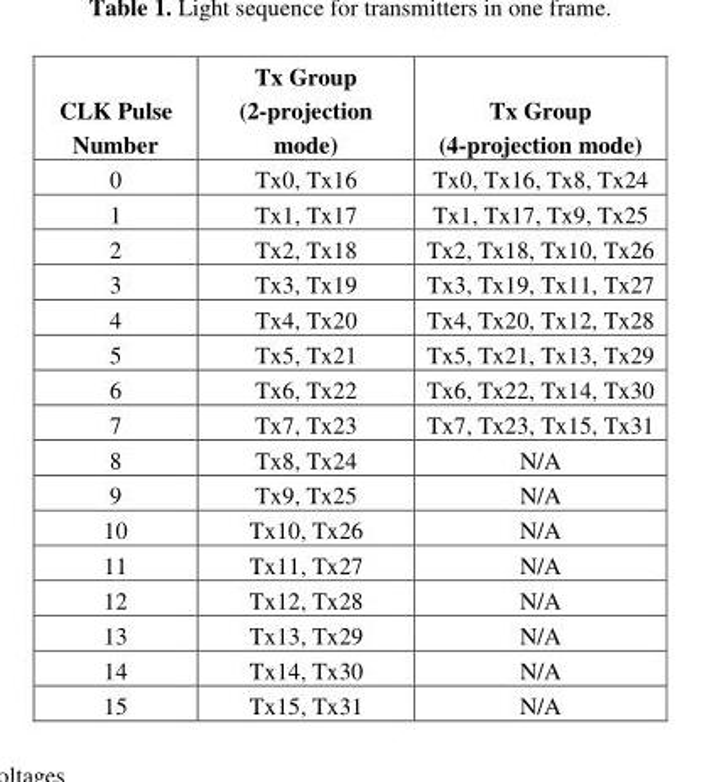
<table><thead><tr><td>CLK Pulse Number</td><td>Tx Group (2-projection mode)</td><td>Tx Group (4-projection mode)</td></tr></thead><tbody><tr><td>0</td><td>Tx0, Tx16</td><td>Tx0, Tx16, Tx8, Tx24</td></tr><tr><td>1</td><td>Tx1, Tx17</td><td>Tx1, Tx17, Tx9, Tx25</td></tr><tr><td>2</td><td>Tx2, Tx18</td><td>Tx2, Tx18, Tx10, Tx26</td></tr><tr><td>3</td><td>Tx3, Tx19</td><td>Tx3, Tx19, Tx11, Tx27</td></tr><tr><td>4</td><td>Tx4, Tx20</td><td>Tx4, Tx20, Tx12, Tx28</td></tr><tr><td>5</td><td>Tx5, Tx21</td><td>Tx5, Tx21, Tx13, Tx29</td></tr><tr><td>6</td><td>Tx6, Tx22</td><td>Tx6, Tx22, Tx14, Tx30</td></tr><tr><td>7</td><td>Tx7, Tx23</td><td>Tx7, Tx23, Tx15, Tx31</td></tr><tr><td>8</td><td>Tx8, Tx24</td><td>N/A</td></tr><tr><td>9</td><td>Tx9, Tx25</td><td>N/A</td></tr><tr><td>10</td><td>Tx10, Tx26</td><td>N/A</td></tr><tr><td>11</td><td>Tx11, Tx27</td><td>N/A</td></tr><tr><td>12</td><td>Tx12, Tx28</td><td>N/A</td></tr><tr><td>13</td><td>Tx13, Tx29</td><td>N/A</td></tr><tr><td>14</td><td>Tx14, Tx30</td><td>N/A</td></tr><tr><td>15</td><td>Tx15, Tx31</td><td>N/A</td></tr></tbody></table>